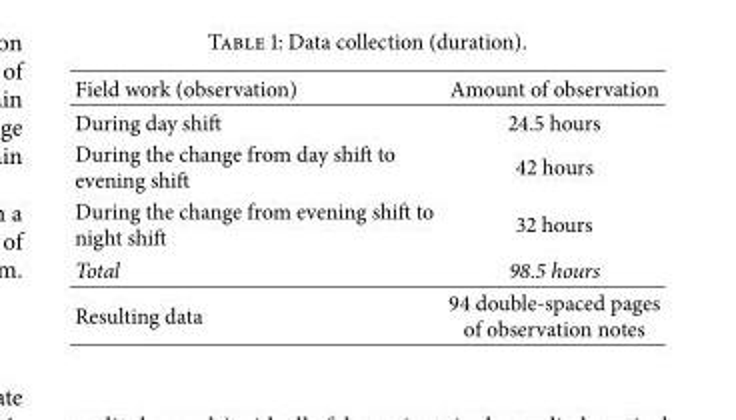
<table><thead><tr><td>Field work (observation)</td><td>Amount of observation</td></tr></thead><tbody><tr><td>During day shift</td><td>24.5 hours</td></tr><tr><td>During the change from day shift to evening shift</td><td>42 hours</td></tr><tr><td>During the change from evening shift to night shift</td><td>32 hours</td></tr><tr><td>Total</td><td>98.5 hours</td></tr><tr><td>Resulting data</td><td>94 double-spaced pages of observation notes</td></tr></tbody></table>